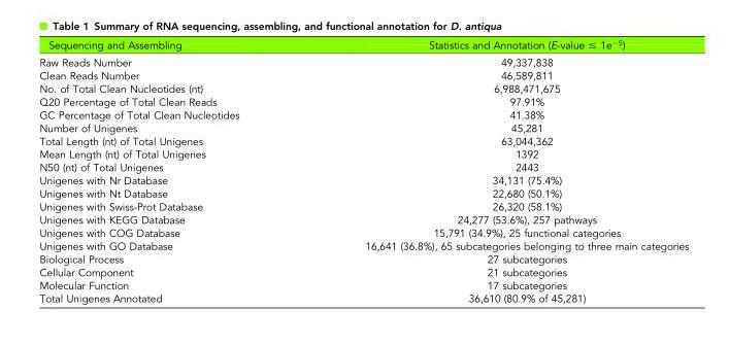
<table><thead><tr><td>Sequencing and Assembling</td><td>Statistics and Annotation (E-value ≤ 1e<sup>−5</sup>)</td></tr></thead><tbody><tr><td>Raw Reads Number</td><td>49,337,838</td></tr><tr><td>Clean Reads Number</td><td>46,589,811</td></tr><tr><td>No. of Total Clean Nucleotides (nt)</td><td>6,988,471,675</td></tr><tr><td>Q20 Percentage of Total Clean Reads</td><td>97.91%</td></tr><tr><td>GC Percentage of Total Clean Nucleotides</td><td>41.38%</td></tr><tr><td>Number of Unigenes</td><td>45,281</td></tr><tr><td>Total Length (nt) of Total Unigenes</td><td>63,044,362</td></tr><tr><td>Mean Length (nt) of Total Unigenes</td><td>1392</td></tr><tr><td>N50 (nt) of Total Unigenes</td><td>2443</td></tr><tr><td>Unigenes with Nr Database</td><td>34,131 (75.4%)</td></tr><tr><td>Unigenes with Nt Database</td><td>22,680 (50.1%)</td></tr><tr><td>Unigenes with Swiss-Prot Database</td><td>26,320 (58.1%)</td></tr><tr><td>Unigenes with KEGG Database</td><td>24,277 (53.6%), 257 pathways</td></tr><tr><td>Unigenes with COG Database</td><td>15,791 (34.9%), 25 functional categories</td></tr><tr><td>Unigenes with GO Database</td><td>16,641 (36.8%), 65 subcategories belonging to three main categories</td></tr><tr><td>Biological Process</td><td>27 subcategories</td></tr><tr><td>Cellular Component</td><td>21 subcategories</td></tr><tr><td>Molecular Function</td><td>17 subcategories</td></tr><tr><td>Total Unigenes Annotated</td><td>36,610 (80.9% of 45,281)</td></tr></tbody></table>